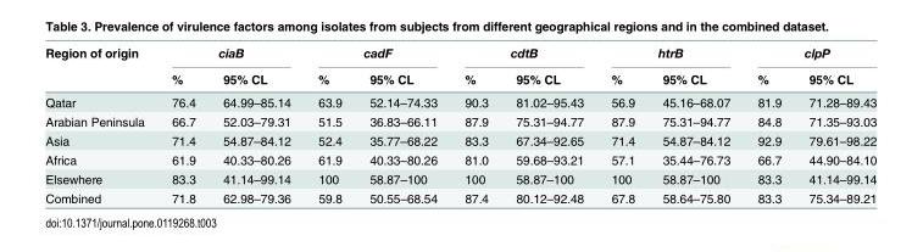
<table><thead><tr><td rowspan="2">Region of origin</td><td colspan="2">ciaB</td><td colspan="2">cadF</td><td colspan="2">cdtB</td><td colspan="2">htrB</td><td colspan="2">clpP</td></tr><tr><td>%</td><td>95% CL</td><td>%</td><td>95% CL</td><td>%</td><td>95% CL</td><td>%</td><td>95% CL</td><td>%</td><td>95% CL</td></tr></thead><tbody><tr><td>Qatar</td><td>76.4</td><td>64.99–85.14</td><td>63.9</td><td>52.14–74.33</td><td>90.3</td><td>81.02–95.43</td><td>56.9</td><td>45.16–68.07</td><td>81.9</td><td>71.28–89.43</td></tr><tr><td>Arabian Peninsula</td><td>66.7</td><td>52.03–79.31</td><td>51.5</td><td>36.83–66.11</td><td>87.9</td><td>75.31–94.77</td><td>87.9</td><td>75.31–94.77</td><td>84.8</td><td>71.35–93.03</td></tr><tr><td>Asia</td><td>71.4</td><td>54.87–84.12</td><td>52.4</td><td>35.77–68.22</td><td>83.3</td><td>67.34–92.65</td><td>71.4</td><td>54.87–84.12</td><td>92.9</td><td>79.61–98.22</td></tr><tr><td>Africa</td><td>61.9</td><td>40.33–80.26</td><td>61.9</td><td>40.33–80.26</td><td>81.0</td><td>59.68–93.21</td><td>57.1</td><td>35.44–76.73</td><td>66.7</td><td>44.90–84.10</td></tr><tr><td>Elsewhere</td><td>83.3</td><td>41.14–99.14</td><td>100</td><td>58.87–100</td><td>100</td><td>58.87–100</td><td>100</td><td>58.87–100</td><td>83.3</td><td>41.14–99.14</td></tr><tr><td>Combined</td><td>71.8</td><td>62.98–79.36</td><td>59.8</td><td>50.55–68.54</td><td>87.4</td><td>80.12–92.48</td><td>67.8</td><td>58.64–75.80</td><td>83.3</td><td>75.34–89.21</td></tr></tbody></table>